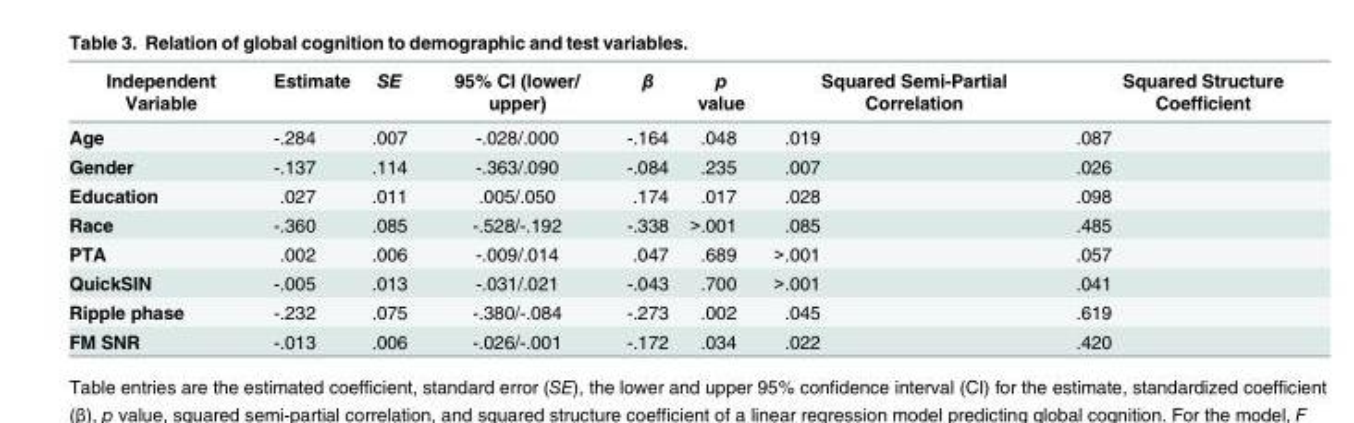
<table><thead><tr><td>Independent Variable</td><td>Estimate</td><td>SE</td><td>95% CI (lower/ upper)</td><td>β</td><td>p value</td><td>Squared Semi-Partial Correlation</td><td>Squared Structure Coefficient</td></tr></thead><tbody><tr><td>Age</td><td>-.284</td><td>.007</td><td>-.028/.000</td><td>-.164</td><td>.048</td><td>.019</td><td>.087</td></tr><tr><td>Gender</td><td>-.137</td><td>.114</td><td>-.363/.090</td><td>-.084</td><td>.235</td><td>.007</td><td>.026</td></tr><tr><td>Education</td><td>.027</td><td>.011</td><td>.005/.050</td><td>.174</td><td>.017</td><td>.028</td><td>.098</td></tr><tr><td>Race</td><td>-.360</td><td>.085</td><td>-.528/-.192</td><td>-.338</td><td>&gt;.001</td><td>.085</td><td>.485</td></tr><tr><td>PTA</td><td>.002</td><td>.006</td><td>-.009/.014</td><td>.047</td><td>.689</td><td>&gt;.001</td><td>.057</td></tr><tr><td>QuickSIN</td><td>-.005</td><td>.013</td><td>-.031/.021</td><td>-.043</td><td>.700</td><td>&gt;.001</td><td>.041</td></tr><tr><td>Ripple phase</td><td>-.232</td><td>.075</td><td>-.380/-.084</td><td>-.273</td><td>.002</td><td>.045</td><td>.619</td></tr><tr><td>FM SNR</td><td>-.013</td><td>.006</td><td>-.026/-.001</td><td>-.172</td><td>.034</td><td>.022</td><td>.420</td></tr></tbody></table>